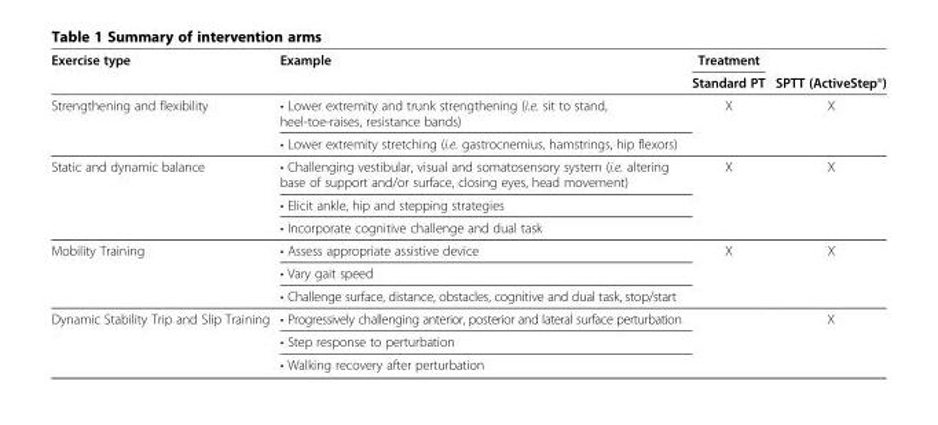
<table><thead><tr><td rowspan="2">Exercise type</td><td rowspan="2">Example</td><td rowspan="2">Treatment Standard PT</td><td rowspan="2">SPTT (ActiveStep®)</td></tr><tr></tr></thead><tbody><tr><td rowspan="2">Strengthening and flexibility</td><td>• Lower extremity and trunk strengthening (i.e. sit to stand, heel-toe-raises, resistance bands)</td><td rowspan="2">X</td><td rowspan="2">X</td></tr><tr><td>• Lower extremity stretching (i.e. gastrocnemius, hamstrings, hip flexors)</td></tr><tr><td rowspan="3">Static and dynamic balance</td><td>• Challenging vestibular, visual and somatosensory system (i.e. altering base of support and/or surface, closing eyes, head movement)</td><td rowspan="2">X</td><td rowspan="2">X</td></tr><tr><td>• Elicit ankle, hip and stepping strategies</td></tr><tr><td>• Incorporate cognitive challenge and dual task</td><td></td><td></td></tr><tr><td rowspan="3">Mobility Training</td><td>• Assess appropriate assistive device</td><td>X</td><td>X</td></tr><tr><td>• Vary gait speed</td><td></td><td></td></tr><tr><td>• Challenge surface, distance, obstacles, cognitive and dual task, stop/start</td><td></td><td></td></tr><tr><td rowspan="3">Dynamic Stability Trip and Slip Training</td><td>• Progressively challenging anterior, posterior and lateral surface perturbation</td><td rowspan="3"></td><td rowspan="3">X</td></tr><tr><td>• Step response to perturbation</td></tr><tr><td>• Walking recovery after perturbation</td></tr></tbody></table>